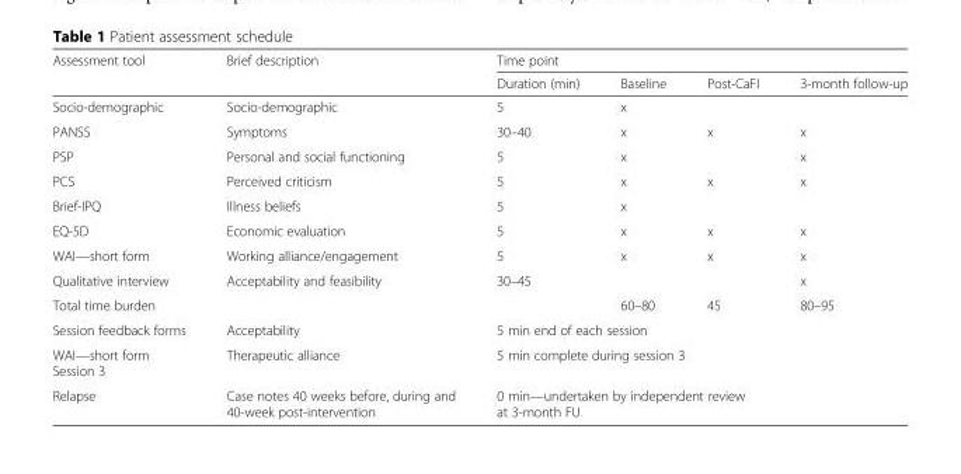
<table><thead><tr><td rowspan="2">Assessment tool</td><td rowspan="2">Brief description</td><td colspan="4">Time point</td></tr><tr><td>Duration (min)</td><td>Baseline</td><td>Post-CaFI</td><td>3-month follow-up</td></tr></thead><tbody><tr><td>Socio-demographic</td><td>Socio-demographic</td><td>5</td><td>x</td><td></td><td></td></tr><tr><td>PANSS</td><td>Symptoms</td><td>30–40</td><td>x</td><td>x</td><td>x</td></tr><tr><td>PSP</td><td>Personal and social functioning</td><td>5</td><td>x</td><td></td><td>x</td></tr><tr><td>PCS</td><td>Perceived criticism</td><td>5</td><td>x</td><td>x</td><td>x</td></tr><tr><td>Brief-IPQ</td><td>Illness beliefs</td><td>5</td><td>x</td><td></td><td></td></tr><tr><td>EQ-5D</td><td>Economic evaluation</td><td>5</td><td>x</td><td>x</td><td>x</td></tr><tr><td>WAI—short form</td><td>Working alliance/engagement</td><td>5</td><td>x</td><td>x</td><td>x</td></tr><tr><td>Qualitative interview</td><td>Acceptability and feasibility</td><td>30–45</td><td></td><td></td><td>x</td></tr><tr><td>Total time burden</td><td></td><td></td><td>60–80</td><td>45</td><td>80–95</td></tr><tr><td>Session feedback forms</td><td>Acceptability</td><td colspan="4">5 min end of each session</td></tr><tr><td>WAI—short form Session 3</td><td>Therapeutic alliance</td><td colspan="4">5 min complete during session 3</td></tr><tr><td>Relapse</td><td>Case notes 40 weeks before, during and 40-week post-intervention</td><td colspan="4">0 min—undertaken by independent review at 3-month FU</td></tr></tbody></table>